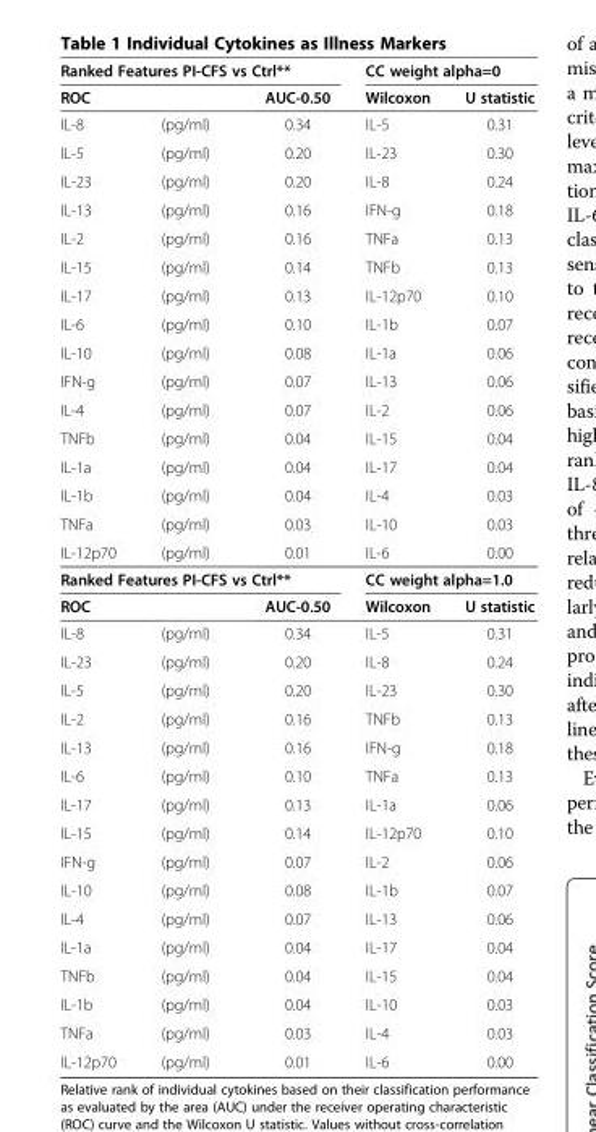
<table><thead><tr><td colspan="3">Ranked Features PI-CFS vs Ctrl**</td><td colspan="2">CC weight alpha=0</td></tr><tr><td>ROC</td><td></td><td>AUC-0.50</td><td>Wilcoxon</td><td>U statistic</td></tr></thead><tbody><tr><td>IL-8</td><td>(pg/ml)</td><td>0.34</td><td>IL-5</td><td>0.31</td></tr><tr><td>IL-5</td><td>(pg/ml)</td><td>0.20</td><td>IL-23</td><td>0.30</td></tr><tr><td>IL-23</td><td>(pg/ml)</td><td>0.20</td><td>IL-8</td><td>0.24</td></tr><tr><td>IL-13</td><td>(pg/ml)</td><td>0.16</td><td>IFN-g</td><td>0.18</td></tr><tr><td>IL-2</td><td>(pg/ml)</td><td>0.16</td><td>TNFa</td><td>0.13</td></tr><tr><td>IL-15</td><td>(pg/ml)</td><td>0.14</td><td>TNFb</td><td>0.13</td></tr><tr><td>IL-17</td><td>(pg/ml)</td><td>0.13</td><td>IL-12p70</td><td>0.10</td></tr><tr><td>IL-6</td><td>(pg/ml)</td><td>0.10</td><td>IL-1b</td><td>0.07</td></tr><tr><td>IL-10</td><td>(pg/ml)</td><td>0.08</td><td>IL-1a</td><td>0.06</td></tr><tr><td>IFN-g</td><td>(pg/ml)</td><td>0.07</td><td>IL-13</td><td>0.06</td></tr><tr><td>IL-4</td><td>(pg/ml)</td><td>0.07</td><td>IL-2</td><td>0.06</td></tr><tr><td>TNFb</td><td>(pg/ml)</td><td>0.04</td><td>IL-15</td><td>0.04</td></tr><tr><td>IL-1a</td><td>(pg/ml)</td><td>0.04</td><td>IL-17</td><td>0.04</td></tr><tr><td>IL-1b</td><td>(pg/ml)</td><td>0.04</td><td>IL-4</td><td>0.03</td></tr><tr><td>TNFa</td><td>(pg/ml)</td><td>0.03</td><td>IL-10</td><td>0.03</td></tr><tr><td>IL-12p70</td><td>(pg/ml)</td><td>0.01</td><td>IL-6</td><td>0.00</td></tr><tr><td colspan="3">Ranked Features PI-CFS vs Ctrl**</td><td colspan="2">CC weight alpha=1.0</td></tr><tr><td>ROC</td><td></td><td>AUC-0.50</td><td>Wilcoxon</td><td>U statistic</td></tr><tr><td>IL-8</td><td>(pg/ml)</td><td>0.34</td><td>IL-5</td><td>0.31</td></tr><tr><td>IL-23</td><td>(pg/ml)</td><td>0.20</td><td>IL-8</td><td>0.24</td></tr><tr><td>IL-5</td><td>(pg/ml)</td><td>0.20</td><td>IL-23</td><td>0.30</td></tr><tr><td>IL-2</td><td>(pg/ml)</td><td>0.16</td><td>TNFb</td><td>0.13</td></tr><tr><td>IL-13</td><td>(pg/ml)</td><td>0.16</td><td>IFN-g</td><td>0.18</td></tr><tr><td>IL-6</td><td>(pg/ml)</td><td>0.10</td><td>TNFa</td><td>0.13</td></tr><tr><td>IL-17</td><td>(pg/ml)</td><td>0.13</td><td>IL-1a</td><td>0.06</td></tr><tr><td>IL-15</td><td>(pg/ml)</td><td>0.14</td><td>IL-12p70</td><td>0.10</td></tr><tr><td>IFN-g</td><td>(pg/ml)</td><td>0.07</td><td>IL-2</td><td>0.06</td></tr><tr><td>IL-10</td><td>(pg/ml)</td><td>0.08</td><td>IL-1b</td><td>0.07</td></tr><tr><td>IL-4</td><td>(pg/ml)</td><td>0.07</td><td>IL-13</td><td>0.06</td></tr><tr><td>IL-1a</td><td>(pg/ml)</td><td>0.04</td><td>IL-17</td><td>0.04</td></tr><tr><td>TNFb</td><td>(pg/ml)</td><td>0.04</td><td>IL-15</td><td>0.04</td></tr><tr><td>IL-1b</td><td>(pg/ml)</td><td>0.04</td><td>IL-10</td><td>0.03</td></tr><tr><td>TNFa</td><td>(pg/ml)</td><td>0.03</td><td>IL-4</td><td>0.03</td></tr><tr><td>IL-12p70</td><td>(pg/ml)</td><td>0.01</td><td>IL-6</td><td>0.00</td></tr></tbody></table>